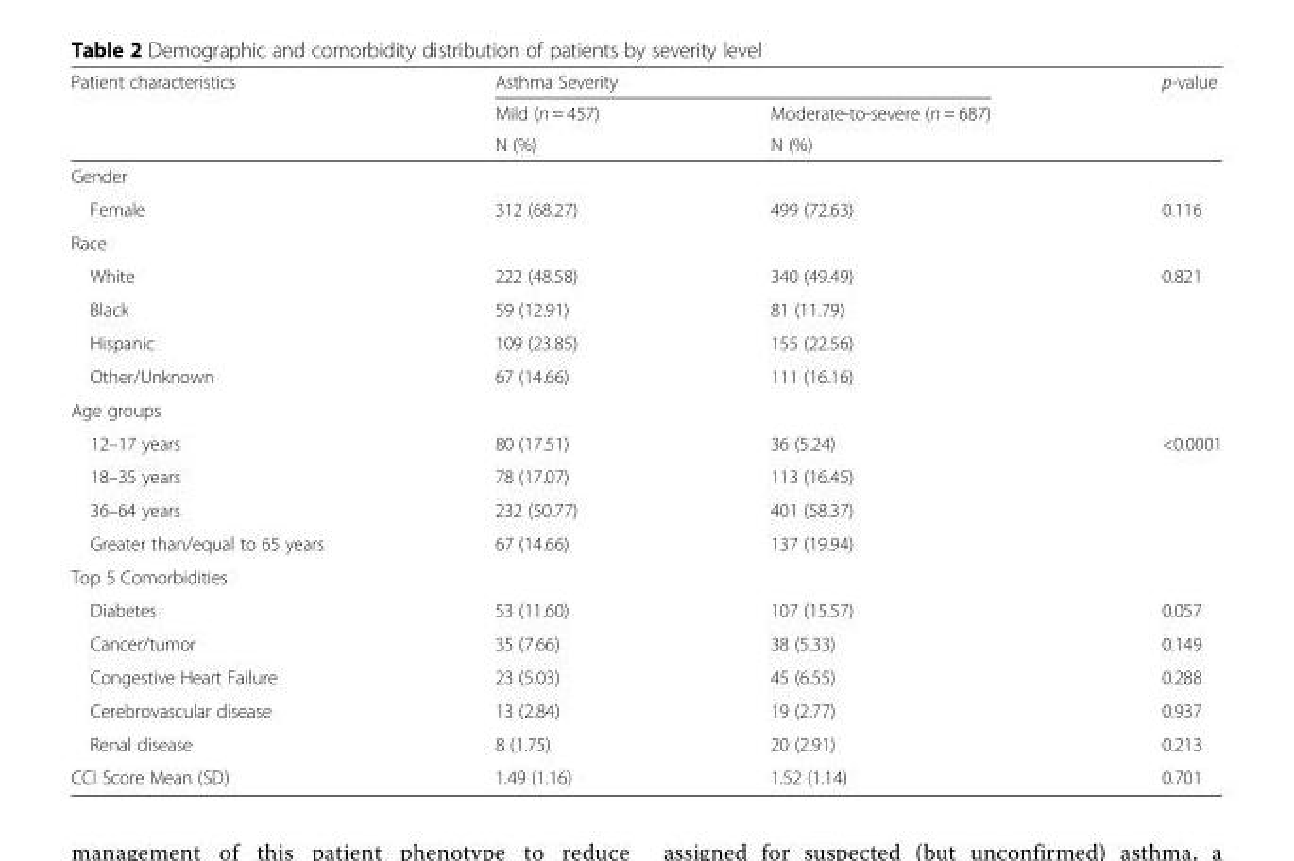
<table><thead><tr><td rowspan="3">Patient characteristics</td><td colspan="2">Asthma Severity</td><td rowspan="3">p-value</td></tr><tr><td rowspan="2">Mild (n = 457) N (%)</td><td rowspan="2">Moderate-to-severe (n = 687) N (%)</td></tr><tr></tr></thead><tbody><tr><td colspan="4">Gender</td></tr><tr><td>Female</td><td>312 (68.27)</td><td>499 (72.63)</td><td>0.116</td></tr><tr><td colspan="4">Race</td></tr><tr><td>White</td><td>222 (48.58)</td><td>340 (49.49)</td><td rowspan="4">0.821</td></tr><tr><td>Black</td><td>59 (12.91)</td><td>81 (11.79)</td></tr><tr><td>Hispanic</td><td>109 (23.85)</td><td>155 (22.56)</td></tr><tr><td>Other/Unknown</td><td>67 (14.66)</td><td>111 (16.16)</td></tr><tr><td colspan="4">Age groups</td></tr><tr><td>12–17 years</td><td>80 (17.51)</td><td>36 (5.24)</td><td rowspan="4">&lt;0.0001</td></tr><tr><td>18–35 years</td><td>78 (17.07)</td><td>113 (16.45)</td></tr><tr><td>36–64 years</td><td>232 (50.77)</td><td>401 (58.37)</td></tr><tr><td>Greater than/equal to 65 years</td><td>67 (14.66)</td><td>137 (19.94)</td></tr><tr><td colspan="4">Top 5 Comorbidities</td></tr><tr><td>Diabetes</td><td>53 (11.60)</td><td>107 (15.57)</td><td>0.057</td></tr><tr><td>Cancer/tumor</td><td>35 (7.66)</td><td>38 (5.33)</td><td>0.149</td></tr><tr><td>Congestive Heart Failure</td><td>23 (5.03)</td><td>45 (6.55)</td><td>0.288</td></tr><tr><td>Cerebrovascular disease</td><td>13 (2.84)</td><td>19 (2.77)</td><td>0.937</td></tr><tr><td>Renal disease</td><td>8 (1.75)</td><td>20 (2.91)</td><td>0.213</td></tr><tr><td>CCI Score Mean (SD)</td><td>1.49 (1.16)</td><td>1.52 (1.14)</td><td>0.701</td></tr></tbody></table>